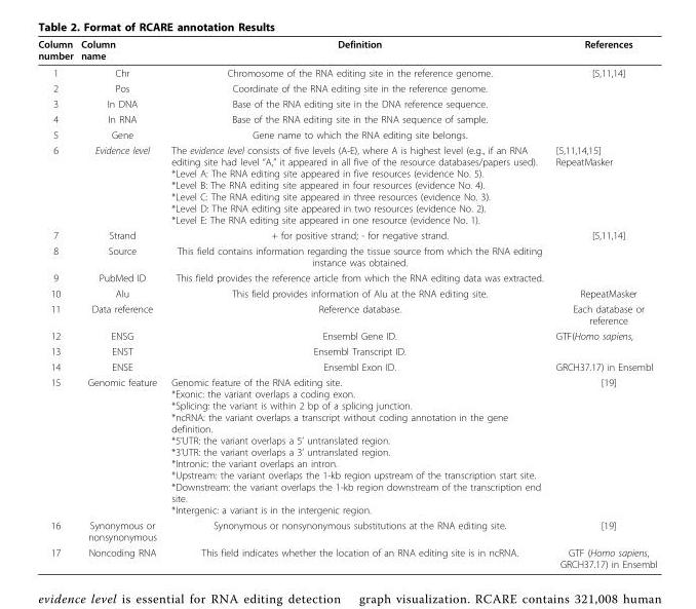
<table><thead><tr><td>Column number</td><td>Column name</td><td>Definition</td><td>References</td></tr></thead><tbody><tr><td>1</td><td>Chr</td><td>Chromosome of the RNA editing site in the reference genome.</td><td>[5,11,14]</td></tr><tr><td>2</td><td>Pos</td><td>Coordinate of the RNA editing site in the reference genome.</td><td></td></tr><tr><td>3</td><td>In DNA</td><td>Base of the RNA editing site in the DNA reference sequence.</td><td></td></tr><tr><td>4</td><td>In RNA</td><td>Base of the RNA editing site in the RNA sequence of sample.</td><td></td></tr><tr><td>5</td><td>Gene</td><td>Gene name to which the RNA editing site belongs.</td><td></td></tr><tr><td>6</td><td>Evidence level</td><td>The evidence level consists of five levels (A-E), where A is highest level (e.g., if an RNA editing site had level “A,” it appeared in all five of the resource databases/papers used). *Level A: The RNA editing site appeared in five resources (evidence No. 5). *Level B: The RNA editing site appeared in four resources (evidence No. 4). *Level C: The RNA editing site appeared in three resources (evidence No. 3). *Level D: The RNA editing site appeared in two resources (evidence No. 2). *Level E: The RNA editing site appeared in one resource (evidence No. 1).</td><td>[5,11,14,15] RepeatMasker</td></tr><tr><td>7</td><td>Strand</td><td>+ for positive strand; - for negative strand.</td><td>[5,11,14]</td></tr><tr><td>8</td><td>Source</td><td>This field contains information regarding the tissue source from which the RNA editing instance was obtained.</td><td></td></tr><tr><td>9</td><td>PubMed ID</td><td>This field provides the reference article from which the RNA editing data was extracted.</td><td></td></tr><tr><td>10</td><td>Alu</td><td>This field provides information of Alu at the RNA editing site.</td><td>RepeatMasker</td></tr><tr><td>11</td><td>Data reference</td><td>Reference database.</td><td>Each database or reference</td></tr><tr><td>12</td><td>ENSG</td><td>Ensembl Gene ID.</td><td>GTF(Homo sapiens,</td></tr><tr><td>13</td><td>ENST</td><td>Ensembl Transcript ID.</td><td></td></tr><tr><td>14</td><td>ENSE</td><td>Ensembl Exon ID.</td><td>GRCH37.17) in Ensembl</td></tr><tr><td>15</td><td>Genomic feature</td><td>Genomic feature of the RNA editing site. *Exonic: the variant overlaps a coding exon. *Splicing: the variant is within 2 bp of a splicing junction. *ncRNA: the variant overlaps a transcript without coding annotation in the gene definition. *5’UTR: the variant overlaps a 5’ untranslated region. *3’UTR: the variant overlaps a 3’ untranslated region. *Intronic: the variant overlaps an intron. *Upstream: the variant overlaps the 1-kb region upstream of the transcription start site. *Downstream: the variant overlaps the 1-kb region downstream of the transcription end site. *Intergenic: a variant is in the intergenic region.</td><td>[19]</td></tr><tr><td>16</td><td>Synonymous or nonsynonymous</td><td>Synonymous or nonsynonymous substitutions at the RNA editing site.</td><td>[19]</td></tr><tr><td>17</td><td>Noncoding RNA</td><td>This field indicates whether the location of an RNA editing site is in ncRNA.</td><td>GTF (Homo sapiens, GRCH37.17) in Ensembl</td></tr></tbody></table>